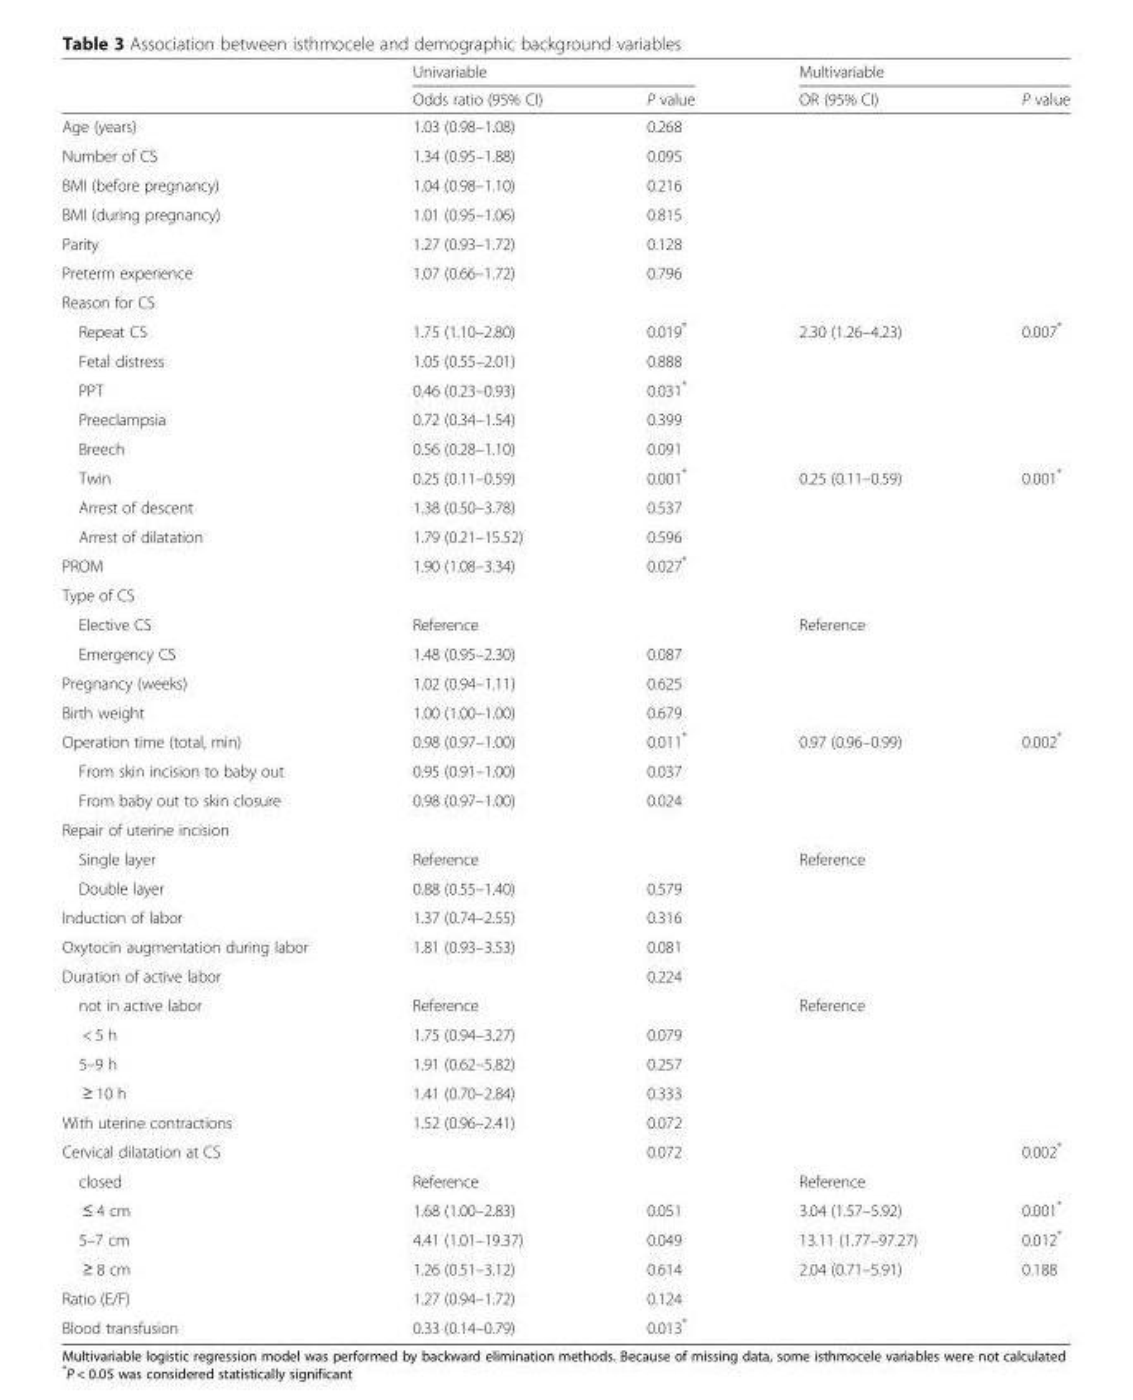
<table><thead><tr><td rowspan="2"></td><td colspan="2">Univariable</td><td colspan="2">Multivariable</td></tr><tr><td>Odds ratio (95% CI)</td><td>P value</td><td>OR (95% CI)</td><td>P value</td></tr></thead><tbody><tr><td>Age (years)</td><td>1.03 (0.98–1.08)</td><td>0.268</td><td></td><td rowspan="6"></td></tr><tr><td>Number of CS</td><td>1.34 (0.95–1.88)</td><td>0.095</td><td></td></tr><tr><td>BMI (before pregnancy)</td><td>1.04 (0.98–1.10)</td><td>0.216</td><td></td></tr><tr><td>BMI (during pregnancy)</td><td>1.01 (0.95–1.06)</td><td>0.815</td><td></td></tr><tr><td>Parity</td><td>1.27 (0.93–1.72)</td><td>0.128</td><td></td></tr><tr><td>Preterm experience</td><td>1.07 (0.66–1.72)</td><td>0.796</td><td></td></tr><tr><td colspan="5">Reason for CS</td></tr><tr><td>Repeat CS</td><td>1.75 (1.10–2.80)</td><td>0.019*</td><td>2.30 (1.26–4.23)</td><td>0.007*</td></tr><tr><td>Fetal distress</td><td>1.05 (0.55–2.01)</td><td>0.888</td><td></td><td rowspan="4"></td></tr><tr><td>PPT</td><td>0.46 (0.23–0.93)</td><td>0.031*</td><td></td></tr><tr><td>Preeclampsia</td><td>0.72 (0.34–1.54)</td><td>0.399</td><td></td></tr><tr><td>Breech</td><td>0.56 (0.28–1.10)</td><td>0.091</td><td></td></tr><tr><td>Twin</td><td>0.25 (0.11–0.59)</td><td>0.001*</td><td>0.25 (0.11–0.59)</td><td>0.001*</td></tr><tr><td>Arrest of descent</td><td>1.38 (0.50–3.78)</td><td>0.537</td><td></td><td rowspan="2"></td></tr><tr><td>Arrest of dilatation</td><td>1.79 (0.21–15.52)</td><td>0.596</td><td></td></tr><tr><td>PROM</td><td>1.90 (1.08–3.34)</td><td>0.027*</td><td></td><td></td></tr><tr><td colspan="5">Type of CS</td></tr><tr><td>Elective CS</td><td>Reference</td><td></td><td>Reference</td><td rowspan="2"></td></tr><tr><td>Emergency CS</td><td>1.48 (0.95–2.30)</td><td>0.087</td><td></td></tr><tr><td>Pregnancy (weeks)</td><td>1.02 (0.94–1.11)</td><td>0.625</td><td></td><td rowspan="2"></td></tr><tr><td>Birth weight</td><td>1.00 (1.00–1.00)</td><td>0.679</td><td></td></tr><tr><td>Operation time (total, min)</td><td>0.98 (0.97–1.00)</td><td>0.011*</td><td>0.97 (0.96–0.99)</td><td>0.002*</td></tr><tr><td>From skin incision to baby out</td><td>0.95 (0.91–1.00)</td><td>0.037</td><td></td><td rowspan="2"></td></tr><tr><td>From baby out to skin closure</td><td>0.98 (0.97–1.00)</td><td>0.024</td><td></td></tr><tr><td colspan="5">Repair of uterine incision</td></tr><tr><td>Single layer</td><td>Reference</td><td></td><td>Reference</td><td rowspan="2"></td></tr><tr><td>Double layer</td><td>0.88 (0.55–1.40)</td><td>0.579</td><td></td></tr><tr><td>Induction of labor</td><td>1.37 (0.74–2.55)</td><td>0.316</td><td></td><td rowspan="2"></td></tr><tr><td>Oxytocin augmentation during labor</td><td>1.81 (0.93–3.53)</td><td>0.081</td><td></td></tr><tr><td>Duration of active labor</td><td></td><td>0.224</td><td></td><td></td></tr><tr><td>not in active labor</td><td>Reference</td><td></td><td>Reference</td><td rowspan="4"></td></tr><tr><td>&lt; 5 h</td><td>1.75 (0.94–3.27)</td><td>0.079</td><td></td></tr><tr><td>5–9 h</td><td>1.91 (0.62–5.82)</td><td>0.257</td><td></td></tr><tr><td>≥ 10 h</td><td>1.41 (0.70–2.84)</td><td>0.333</td><td></td></tr><tr><td>With uterine contractions</td><td>1.52 (0.96–2.41)</td><td>0.072</td><td></td><td></td></tr><tr><td>Cervical dilatation at CS</td><td></td><td>0.072</td><td></td><td>0.002*</td></tr><tr><td>closed</td><td>Reference</td><td></td><td>Reference</td><td></td></tr><tr><td>≤ 4 cm</td><td>1.68 (1.00–2.83)</td><td>0.051</td><td>3.04 (1.57–5.92)</td><td>0.001*</td></tr><tr><td>5–7 cm</td><td>4.41 (1.01–19.37)</td><td>0.049</td><td>13.11 (1.77–97.27)</td><td>0.012*</td></tr><tr><td>≥ 8 cm</td><td>1.26 (0.51–3.12)</td><td>0.614</td><td>2.04 (0.71–5.91)</td><td>0.188</td></tr><tr><td>Ratio (E/F)</td><td>1.27 (0.94–1.72)</td><td>0.124</td><td></td><td rowspan="2"></td></tr><tr><td>Blood transfusion</td><td>0.33 (0.14–0.79)</td><td>0.013*</td><td></td></tr></tbody></table>